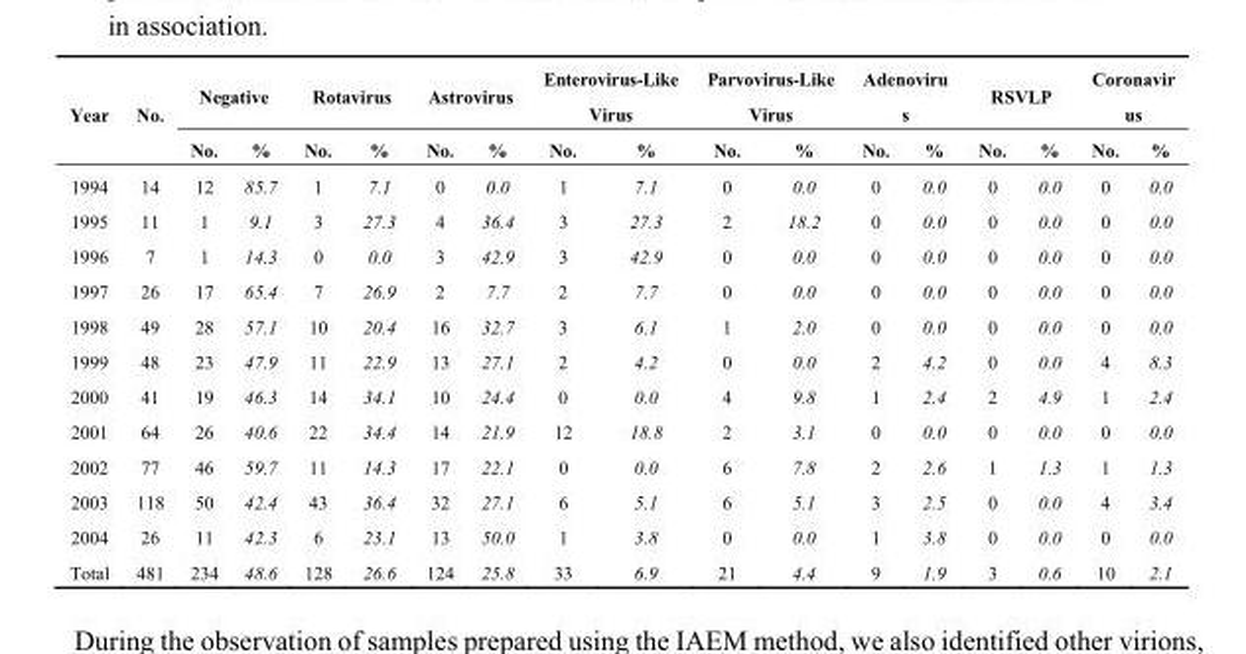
<table><thead><tr><td rowspan="2">Year</td><td rowspan="2">No.</td><td colspan="2">Negative</td><td colspan="2">Rotavirus</td><td colspan="2">Astrovirus</td><td colspan="2">Enterovirus-Like Virus</td><td colspan="2">Parvovirus-Like Virus</td><td colspan="2">Adenoviru s</td><td colspan="2">RSVLP</td><td colspan="2">Coronavir us</td></tr><tr><td>No.</td><td>%</td><td>No.</td><td>%</td><td>No.</td><td>%</td><td>No.</td><td>%</td><td>No.</td><td>%</td><td>No.</td><td>%</td><td>No.</td><td>%</td><td>No.</td><td>%</td></tr></thead><tbody><tr><td>1994</td><td>14</td><td>12</td><td>85.7</td><td>1</td><td>7.1</td><td>0</td><td>0.0</td><td>1</td><td>7.1</td><td>0</td><td>0.0</td><td>0</td><td>0.0</td><td>0</td><td>0.0</td><td>0</td><td>0.0</td></tr><tr><td>1995</td><td>11</td><td>1</td><td>9.1</td><td>3</td><td>27.3</td><td>4</td><td>36.4</td><td>3</td><td>27.3</td><td>2</td><td>18.2</td><td>0</td><td>0.0</td><td>0</td><td>0.0</td><td>0</td><td>0.0</td></tr><tr><td>1996</td><td>7</td><td>1</td><td>14.3</td><td>0</td><td>0.0</td><td>3</td><td>42.9</td><td>3</td><td>42.9</td><td>0</td><td>0.0</td><td>0</td><td>0.0</td><td>0</td><td>0.0</td><td>0</td><td>0.0</td></tr><tr><td>1997</td><td>26</td><td>17</td><td>65.4</td><td>7</td><td>26.9</td><td>2</td><td>7.7</td><td>2</td><td>7.7</td><td>0</td><td>0.0</td><td>0</td><td>0.0</td><td>0</td><td>0.0</td><td>0</td><td>0.0</td></tr><tr><td>1998</td><td>49</td><td>28</td><td>57.1</td><td>10</td><td>20.4</td><td>16</td><td>32.7</td><td>3</td><td>6.1</td><td>1</td><td>2.0</td><td>0</td><td>0.0</td><td>0</td><td>0.0</td><td>0</td><td>0.0</td></tr><tr><td>1999</td><td>48</td><td>23</td><td>47.9</td><td>11</td><td>22.9</td><td>13</td><td>27.1</td><td>2</td><td>4.2</td><td>0</td><td>0.0</td><td>2</td><td>4.2</td><td>0</td><td>0.0</td><td>4</td><td>8.3</td></tr><tr><td>2000</td><td>41</td><td>19</td><td>46.3</td><td>14</td><td>34.1</td><td>10</td><td>24.4</td><td>0</td><td>0.0</td><td>4</td><td>9.8</td><td>1</td><td>2.4</td><td>2</td><td>4.9</td><td>1</td><td>2.4</td></tr><tr><td>2001</td><td>64</td><td>26</td><td>40.6</td><td>22</td><td>34.4</td><td>14</td><td>21.9</td><td>12</td><td>18.8</td><td>2</td><td>3.1</td><td>0</td><td>0.0</td><td>0</td><td>0.0</td><td>0</td><td>0.0</td></tr><tr><td>2002</td><td>77</td><td>46</td><td>59.7</td><td>11</td><td>14.3</td><td>17</td><td>22.1</td><td>0</td><td>0.0</td><td>6</td><td>7.8</td><td>2</td><td>2.6</td><td>1</td><td>1.3</td><td>1</td><td>1.3</td></tr><tr><td>2003</td><td>118</td><td>50</td><td>42.4</td><td>43</td><td>36.4</td><td>32</td><td>27.1</td><td>6</td><td>5.1</td><td>6</td><td>5.1</td><td>3</td><td>2.5</td><td>0</td><td>0.0</td><td>4</td><td>3.4</td></tr><tr><td>2004</td><td>26</td><td>11</td><td>42.3</td><td>6</td><td>23.1</td><td>13</td><td>50.0</td><td>1</td><td>3.8</td><td>0</td><td>0.0</td><td>1</td><td>3.8</td><td>0</td><td>0.0</td><td>0</td><td>0.0</td></tr><tr><td>Total</td><td>481</td><td>234</td><td>48.6</td><td>128</td><td>26.6</td><td>124</td><td>25.8</td><td>33</td><td>6.9</td><td>21</td><td>4.4</td><td>9</td><td>1.9</td><td>3</td><td>0.6</td><td>10</td><td>2.1</td></tr></tbody></table>